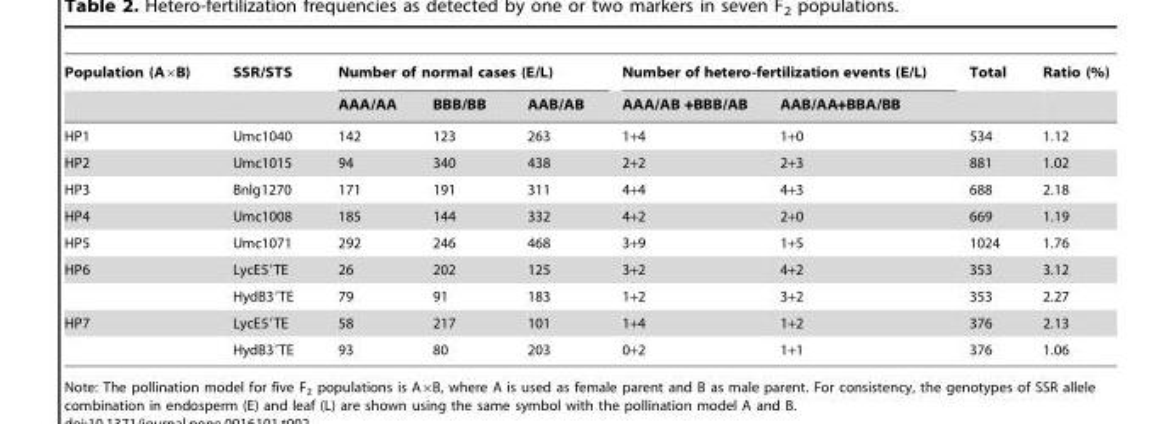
<table><thead><tr><td rowspan="2">Population (A×B)</td><td rowspan="2">SSR/STS</td><td colspan="3">Number of normal cases (E/L)</td><td colspan="2">Number of hetero-fertilization events (E/L)</td><td rowspan="2">Total</td><td rowspan="2">Ratio (%)</td></tr><tr><td>AAA/AA</td><td>BBB/BB</td><td>AAB/AB</td><td>AAA/AB +BBB/AB</td><td>AAB/AA+BBA/BB</td></tr></thead><tbody><tr><td>HP1</td><td>Umc1040</td><td>142</td><td>123</td><td>263</td><td>1+4</td><td>1+0</td><td>534</td><td>1.12</td></tr><tr><td>HP2</td><td>Umc1015</td><td>94</td><td>340</td><td>438</td><td>2+2</td><td>2+3</td><td>881</td><td>1.02</td></tr><tr><td>HP3</td><td>Bnlg1270</td><td>171</td><td>191</td><td>311</td><td>4+4</td><td>4+3</td><td>688</td><td>2.18</td></tr><tr><td>HP4</td><td>Umc1008</td><td>185</td><td>144</td><td>332</td><td>4+2</td><td>2+0</td><td>669</td><td>1.19</td></tr><tr><td>HP5</td><td>Umc1071</td><td>292</td><td>246</td><td>468</td><td>3+9</td><td>1+5</td><td>1024</td><td>1.76</td></tr><tr><td rowspan="2">HP6</td><td>LycE5′TE</td><td>26</td><td>202</td><td>125</td><td>3+2</td><td>4+2</td><td>353</td><td>3.12</td></tr><tr><td>HydB3′TE</td><td>79</td><td>91</td><td>183</td><td>1+2</td><td>3+2</td><td>353</td><td>2.27</td></tr><tr><td rowspan="2">HP7</td><td>LycE5′TE</td><td>58</td><td>217</td><td>101</td><td>1+4</td><td>1+2</td><td>376</td><td>2.13</td></tr><tr><td>HydB3′TE</td><td>93</td><td>80</td><td>203</td><td>0+2</td><td>1+1</td><td>376</td><td>1.06</td></tr></tbody></table>